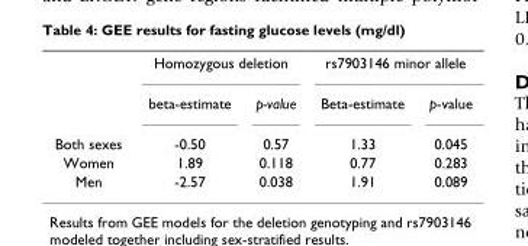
<table><thead><tr><td rowspan="2"></td><td colspan="2">Homozygous deletion</td><td colspan="2">rs7903146 minor allele</td></tr><tr><td>beta-estimate</td><td>p-value</td><td>Beta-estimate</td><td>p-value</td></tr></thead><tbody><tr><td>Both sexes</td><td>-0.50</td><td>0.57</td><td>1.33</td><td>0.045</td></tr><tr><td>Women</td><td>1.89</td><td>0.118</td><td>0.77</td><td>0.283</td></tr><tr><td>Men</td><td>-2.57</td><td>0.038</td><td>1.91</td><td>0.089</td></tr></tbody></table>